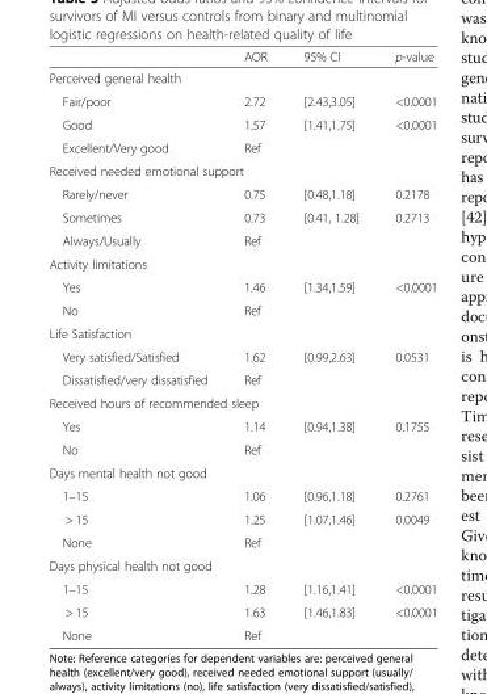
<table><thead><tr><td></td><td>AOR</td><td>95% CI</td><td>p-value</td></tr></thead><tbody><tr><td colspan="4">Perceived general health</td></tr><tr><td>Fair/poor</td><td>2.72</td><td>[2.43,3.05]</td><td>&lt;0.0001</td></tr><tr><td>Good</td><td>1.57</td><td>[1.41,1.75]</td><td>&lt;0.0001</td></tr><tr><td>Excellent/Very good</td><td>Ref</td><td></td><td></td></tr><tr><td colspan="4">Received needed emotional support</td></tr><tr><td>Rarely/never</td><td>0.75</td><td>[0.48,1.18]</td><td>0.2178</td></tr><tr><td>Sometimes</td><td>0.73</td><td>[0.41, 1.28]</td><td>0.2713</td></tr><tr><td>Always/Usually</td><td>Ref</td><td></td><td></td></tr><tr><td colspan="4">Activity limitations</td></tr><tr><td>Yes</td><td>1.46</td><td>[1.34,1.59]</td><td>&lt;0.0001</td></tr><tr><td>No</td><td>Ref</td><td></td><td></td></tr><tr><td colspan="4">Life Satisfaction</td></tr><tr><td>Very satisfied/Satisfied</td><td>1.62</td><td>[0.99,2.63]</td><td>0.0531</td></tr><tr><td>Dissatisfied/very dissatisfied</td><td>Ref</td><td></td><td></td></tr><tr><td colspan="4">Received hours of recommended sleep</td></tr><tr><td>Yes</td><td>1.14</td><td>[0.94,1.38]</td><td>0.1755</td></tr><tr><td>No</td><td>Ref</td><td></td><td></td></tr><tr><td colspan="4">Days mental health not good</td></tr><tr><td>1–15</td><td>1.06</td><td>[0.96,1.18]</td><td>0.2761</td></tr><tr><td>&gt; 15</td><td>1.25</td><td>[1.07,1.46]</td><td>0.0049</td></tr><tr><td>None</td><td>Ref</td><td></td><td></td></tr><tr><td colspan="4">Days physical health not good</td></tr><tr><td>1–15</td><td>1.28</td><td>[1.16,1.41]</td><td>&lt;0.0001</td></tr><tr><td>&gt; 15</td><td>1.63</td><td>[1.46,1.83]</td><td>&lt;0.0001</td></tr><tr><td>None</td><td>Ref</td><td></td><td></td></tr></tbody></table>